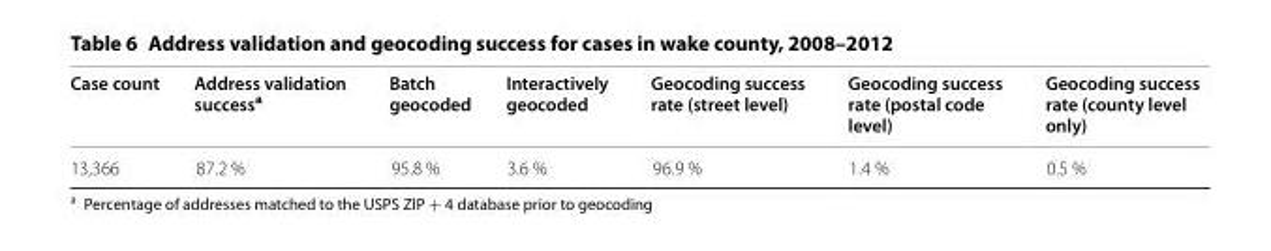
<table><thead><tr><td>Case count</td><td>Address validation success<sup>a</sup></td><td>Batch geocoded</td><td>Interactively geocoded</td><td>Geocoding success rate (street level)</td><td>Geocoding success rate (postal code level)</td><td>Geocoding success rate (county level only)</td></tr></thead><tbody><tr><td>13,366</td><td>87.2 %</td><td>95.8 %</td><td>3.6 %</td><td>96.9 %</td><td>1.4 %</td><td>0.5 %</td></tr></tbody></table>